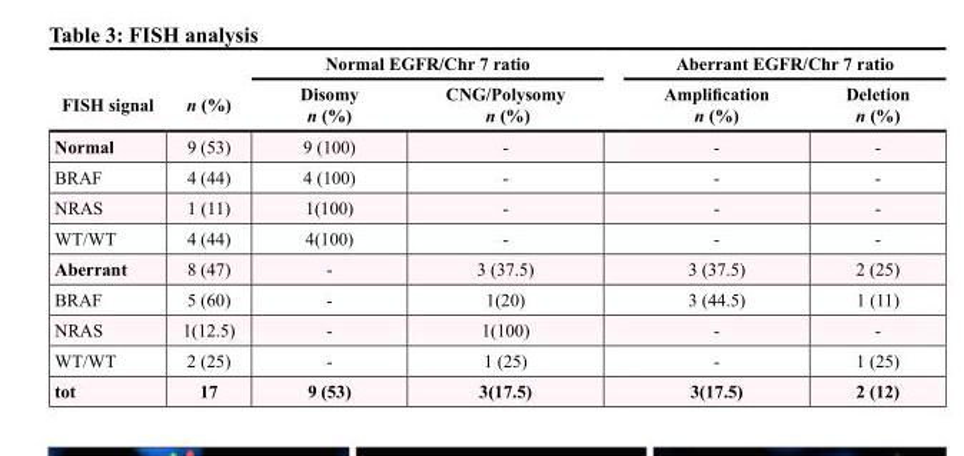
<table><thead><tr><td rowspan="2">FISH signal</td><td rowspan="2">n (%)</td><td colspan="2">Normal EGFR/Chr 7 ratio</td><td colspan="2">Aberrant EGFR/Chr 7 ratio</td></tr><tr><td>Disomy n (%)</td><td>CNG/Polysomy n (%)</td><td>Amplification n (%)</td><td>Deletion n (%)</td></tr></thead><tbody><tr><td>Normal</td><td>9 (53)</td><td>9 (100)</td><td>-</td><td>-</td><td>-</td></tr><tr><td>BRAF</td><td>4 (44)</td><td>4 (100)</td><td>-</td><td>-</td><td>-</td></tr><tr><td>NRAS</td><td>1 (11)</td><td>1(100)</td><td>-</td><td>-</td><td>-</td></tr><tr><td>WT/WT</td><td>4 (44)</td><td>4(100)</td><td>-</td><td>-</td><td>-</td></tr><tr><td>Aberrant</td><td>8 (47)</td><td>-</td><td>3 (37.5)</td><td>3 (37.5)</td><td>2 (25)</td></tr><tr><td>BRAF</td><td>5 (60)</td><td>-</td><td>1(20)</td><td>3 (44.5)</td><td>1 (11)</td></tr><tr><td>NRAS</td><td>1(12.5)</td><td>-</td><td>1(100)</td><td>-</td><td>-</td></tr><tr><td>WT/WT</td><td>2 (25)</td><td>-</td><td>1 (25)</td><td>-</td><td>1 (25)</td></tr><tr><td>tot</td><td>17</td><td>9 (53)</td><td>3(17.5)</td><td>3(17.5)</td><td>2 (12)</td></tr></tbody></table>